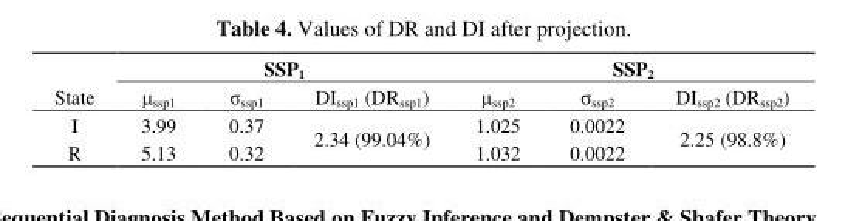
<table><thead><tr><td rowspan="2">State</td><td colspan="3">SSP<sub>1</sub></td><td colspan="3">SSP<sub>2</sub></td></tr><tr><td>μ<sub>ssp1</sub></td><td>σ<sub>ssp1</sub></td><td>DI<sub>ssp1</sub> (DR<sub>ssp1</sub>)</td><td>μ<sub>ssp2</sub></td><td>σ<sub>ssp2</sub></td><td>DI<sub>ssp2</sub> (DR<sub>ssp2</sub>)</td></tr></thead><tbody><tr><td>I</td><td>3.99</td><td>0.37</td><td rowspan="2">2.34 (99.04%)</td><td>1.025</td><td>0.0022</td><td rowspan="2">2.25 (98.8%)</td></tr><tr><td>R</td><td>5.13</td><td>0.32</td><td>1.032</td><td>0.0022</td></tr></tbody></table>